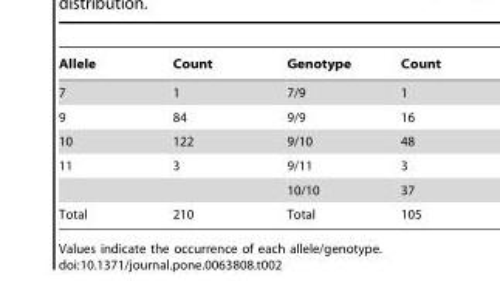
<table><thead><tr><td>Allele</td><td>Count</td><td>Genotype</td><td>Count</td></tr></thead><tbody><tr><td>7</td><td>1</td><td>7/9</td><td>1</td></tr><tr><td>9</td><td>84</td><td>9/9</td><td>16</td></tr><tr><td>10</td><td>122</td><td>9/10</td><td>48</td></tr><tr><td>11</td><td>3</td><td>9/11</td><td>3</td></tr><tr><td colspan="2"></td><td>10/10</td><td>37</td></tr><tr><td>Total</td><td>210</td><td>Total</td><td>105</td></tr></tbody></table>